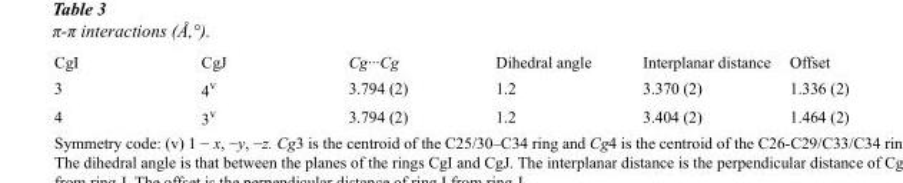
<table><tbody><tr><td>CgI</td><td>CgJ</td><td>Cg···Cg</td><td>Dihedral angle</td><td>Interplanar distance</td><td>Offset</td></tr><tr><td>3</td><td>4<sup>v</sup></td><td>3.794 (2)</td><td>1.2</td><td>3.370 (2)</td><td>1.336 (2)</td></tr><tr><td>4</td><td>3<sup>v</sup></td><td>3.794 (2)</td><td>1.2</td><td>3.404 (2)</td><td>1.464 (2)</td></tr></tbody></table>